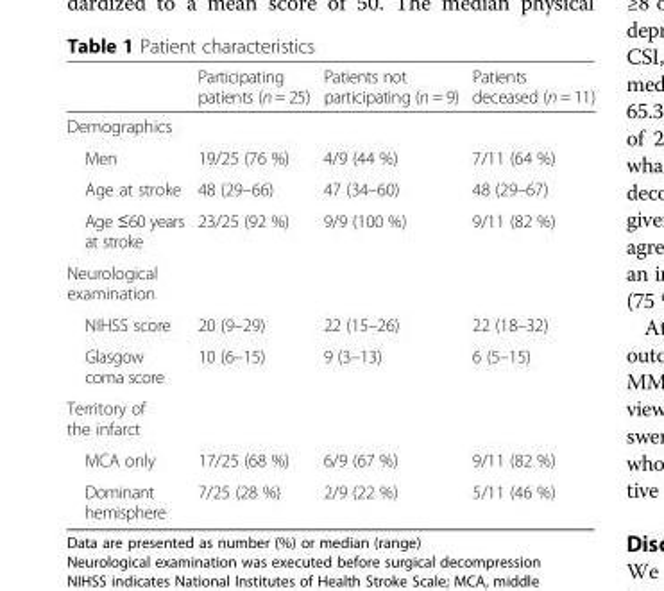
<table><thead><tr><td></td><td>Participating patients (n = 25)</td><td>Patients not participating (n = 9)</td><td>Patients deceased (n = 11)</td></tr></thead><tbody><tr><td colspan="4">Demographics</td></tr><tr><td>Men</td><td>19/25 (76 %)</td><td>4/9 (44 %)</td><td>7/11 (64 %)</td></tr><tr><td>Age at stroke</td><td>48 (29–66)</td><td>47 (34–60)</td><td>48 (29–67)</td></tr><tr><td>Age ≤60 years at stroke</td><td>23/25 (92 %)</td><td>9/9 (100 %)</td><td>9/11 (82 %)</td></tr><tr><td colspan="4">Neurological examination</td></tr><tr><td>NIHSS score</td><td>20 (9–29)</td><td>22 (15–26)</td><td>22 (18–32)</td></tr><tr><td>Glasgow coma score</td><td>10 (6–15)</td><td>9 (3–13)</td><td>6 (5–15)</td></tr><tr><td colspan="4">Territory of the infarct</td></tr><tr><td>MCA only</td><td>17/25 (68 %)</td><td>6/9 (67 %)</td><td>9/11 (82 %)</td></tr><tr><td>Dominant hemisphere</td><td>7/25 (28 %)</td><td>2/9 (22 %)</td><td>5/11 (46 %)</td></tr></tbody></table>